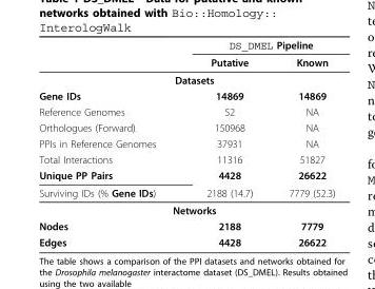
<table><thead><tr><td rowspan="2"></td><td colspan="2">DS_DMEL Pipeline</td></tr><tr><td>Putative</td><td>Known</td></tr></thead><tbody><tr><td colspan="3">Datasets</td></tr><tr><td>Gene IDs</td><td>14869</td><td>14869</td></tr><tr><td>Reference Genomes</td><td>52</td><td>NA</td></tr><tr><td>Orthologues (Forward)</td><td>150968</td><td>NA</td></tr><tr><td>PPIs in Reference Genomes</td><td>37931</td><td>NA</td></tr><tr><td>Total Interactions</td><td>11316</td><td>51827</td></tr><tr><td>Unique PP Pairs</td><td>4428</td><td>26622</td></tr><tr><td>Surviving IDs (% Gene IDs)</td><td>2188 (14.7)</td><td>7779 (52.3)</td></tr><tr><td colspan="3">Networks</td></tr><tr><td>Nodes</td><td>2188</td><td>7779</td></tr><tr><td>Edges</td><td>4428</td><td>26622</td></tr></tbody></table>